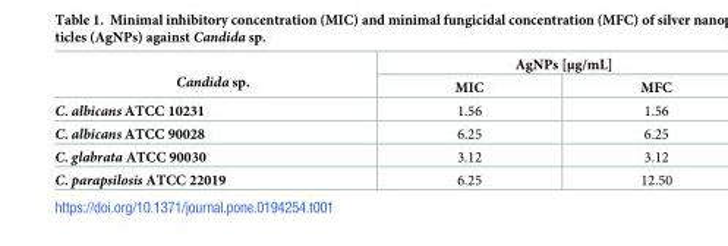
<table><thead><tr><td rowspan="2">Candida sp.</td><td colspan="2">AgNPs [μg/mL]</td></tr><tr><td>MIC</td><td>MFC</td></tr></thead><tbody><tr><td>C. albicans ATCC 10231</td><td>1.56</td><td>1.56</td></tr><tr><td>C. albicans ATCC 90028</td><td>6.25</td><td>6.25</td></tr><tr><td>C. glabrata ATCC 90030</td><td>3.12</td><td>3.12</td></tr><tr><td>C. parapsilosis ATCC 22019</td><td>6.25</td><td>12.50</td></tr></tbody></table>